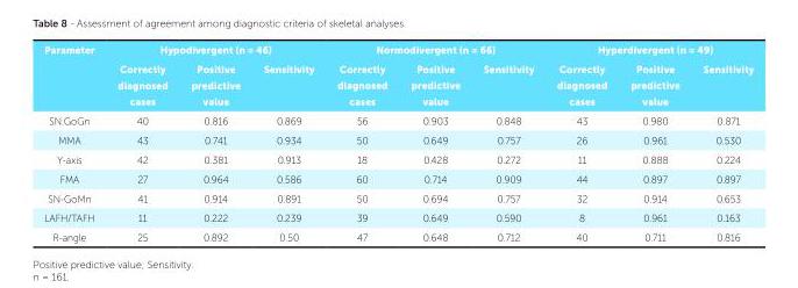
<table><tbody><tr><td rowspan="2">Parameter</td><td colspan="3">Hypodivergent (n = 46)</td><td colspan="3">Normodivergent (n = 66)</td><td colspan="3">Hyperdivergent (n = 49)</td></tr><tr><td>Correctly diagnosed cases</td><td>Positive predictive value</td><td>Sensitivity</td><td>Correctly diagnosed cases</td><td>Positive predictive value</td><td>Sensitivity</td><td>Correctly diagnosed cases</td><td>Positive predictive value</td><td>Sensitivity</td></tr><tr><td>SN.GoGn</td><td>40</td><td>0.816</td><td>0.869</td><td>56</td><td>0.903</td><td>0.848</td><td>43</td><td>0.980</td><td>0.871</td></tr><tr><td>MMA</td><td>43</td><td>0.741</td><td>0.934</td><td>50</td><td>0.649</td><td>0.757</td><td>26</td><td>0.961</td><td>0.530</td></tr><tr><td>Y-axis</td><td>42</td><td>0.381</td><td>0.913</td><td>18</td><td>0.428</td><td>0.272</td><td>11</td><td>0.888</td><td>0.224</td></tr><tr><td>FMA</td><td>27</td><td>0.964</td><td>0.586</td><td>60</td><td>0.714</td><td>0.909</td><td>44</td><td>0.897</td><td>0.897</td></tr><tr><td>SN-GoMn</td><td>41</td><td>0.914</td><td>0.891</td><td>50</td><td>0.694</td><td>0.757</td><td>32</td><td>0.914</td><td>0.653</td></tr><tr><td>LAFH/TAFH</td><td>11</td><td>0.222</td><td>0.239</td><td>39</td><td>0.649</td><td>0.590</td><td>8</td><td>0.961</td><td>0.163</td></tr><tr><td>R-angle</td><td>25</td><td>0.892</td><td>0.50</td><td>47</td><td>0.648</td><td>0.712</td><td>40</td><td>0.711</td><td>0.816</td></tr></tbody></table>